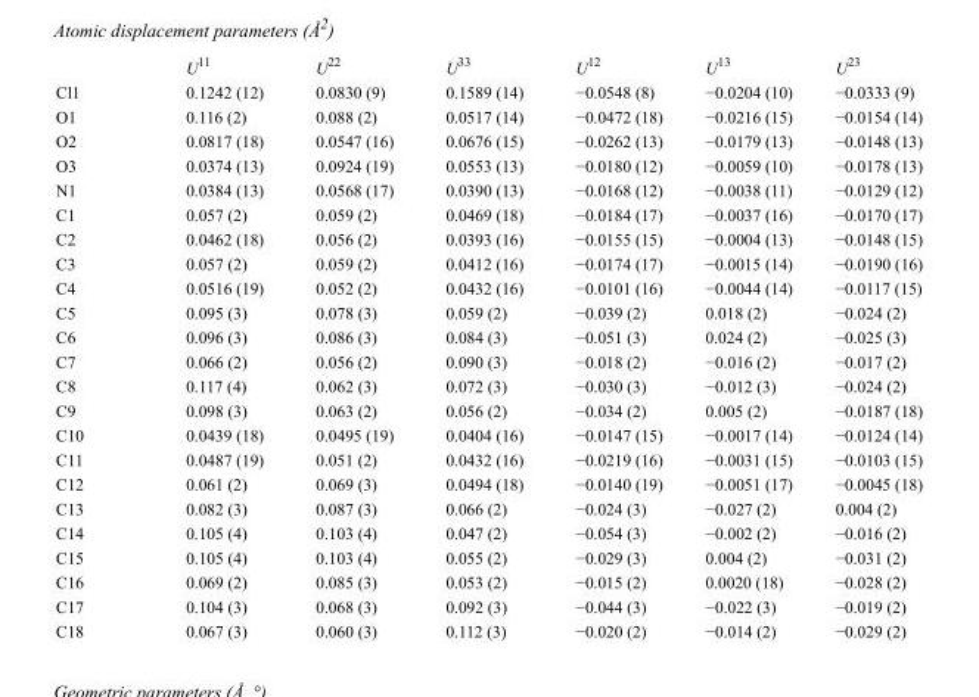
<table><thead><tr><td></td><td>U<sup>11</sup></td><td>U<sup>22</sup></td><td>U<sup>33</sup></td><td>U<sup>12</sup></td><td>U<sup>13</sup></td><td>U<sup>23</sup></td></tr></thead><tbody><tr><td>Cl1</td><td>0.1242 (12)</td><td>0.0830 (9)</td><td>0.1589 (14)</td><td>−0.0548 (8)</td><td>−0.0204 (10)</td><td>−0.0333 (9)</td></tr><tr><td>O1</td><td>0.116 (2)</td><td>0.088 (2)</td><td>0.0517 (14)</td><td>−0.0472 (18)</td><td>−0.0216 (15)</td><td>−0.0154 (14)</td></tr><tr><td>O2</td><td>0.0817 (18)</td><td>0.0547 (16)</td><td>0.0676 (15)</td><td>−0.0262 (13)</td><td>−0.0179 (13)</td><td>−0.0148 (13)</td></tr><tr><td>O3</td><td>0.0374 (13)</td><td>0.0924 (19)</td><td>0.0553 (13)</td><td>−0.0180 (12)</td><td>−0.0059 (10)</td><td>−0.0178 (13)</td></tr><tr><td>N1</td><td>0.0384 (13)</td><td>0.0568 (17)</td><td>0.0390 (13)</td><td>−0.0168 (12)</td><td>−0.0038 (11)</td><td>−0.0129 (12)</td></tr><tr><td>C1</td><td>0.057 (2)</td><td>0.059 (2)</td><td>0.0469 (18)</td><td>−0.0184 (17)</td><td>−0.0037 (16)</td><td>−0.0170 (17)</td></tr><tr><td>C2</td><td>0.0462 (18)</td><td>0.056 (2)</td><td>0.0393 (16)</td><td>−0.0155 (15)</td><td>−0.0004 (13)</td><td>−0.0148 (15)</td></tr><tr><td>C3</td><td>0.057 (2)</td><td>0.059 (2)</td><td>0.0412 (16)</td><td>−0.0174 (17)</td><td>−0.0015 (14)</td><td>−0.0190 (16)</td></tr><tr><td>C4</td><td>0.0516 (19)</td><td>0.052 (2)</td><td>0.0432 (16)</td><td>−0.0101 (16)</td><td>−0.0044 (14)</td><td>−0.0117 (15)</td></tr><tr><td>C5</td><td>0.095 (3)</td><td>0.078 (3)</td><td>0.059 (2)</td><td>−0.039 (2)</td><td>0.018 (2)</td><td>−0.024 (2)</td></tr><tr><td>C6</td><td>0.096 (3)</td><td>0.086 (3)</td><td>0.084 (3)</td><td>−0.051 (3)</td><td>0.024 (2)</td><td>−0.025 (3)</td></tr><tr><td>C7</td><td>0.066 (2)</td><td>0.056 (2)</td><td>0.090 (3)</td><td>−0.018 (2)</td><td>−0.016 (2)</td><td>−0.017 (2)</td></tr><tr><td>C8</td><td>0.117 (4)</td><td>0.062 (3)</td><td>0.072 (3)</td><td>−0.030 (3)</td><td>−0.012 (3)</td><td>−0.024 (2)</td></tr><tr><td>C9</td><td>0.098 (3)</td><td>0.063 (2)</td><td>0.056 (2)</td><td>−0.034 (2)</td><td>0.005 (2)</td><td>−0.0187 (18)</td></tr><tr><td>C10</td><td>0.0439 (18)</td><td>0.0495 (19)</td><td>0.0404 (16)</td><td>−0.0147 (15)</td><td>−0.0017 (14)</td><td>−0.0124 (14)</td></tr><tr><td>C11</td><td>0.0487 (19)</td><td>0.051 (2)</td><td>0.0432 (16)</td><td>−0.0219 (16)</td><td>−0.0031 (15)</td><td>−0.0103 (15)</td></tr><tr><td>C12</td><td>0.061 (2)</td><td>0.069 (3)</td><td>0.0494 (18)</td><td>−0.0140 (19)</td><td>−0.0051 (17)</td><td>−0.0045 (18)</td></tr><tr><td>C13</td><td>0.082 (3)</td><td>0.087 (3)</td><td>0.066 (2)</td><td>−0.024 (3)</td><td>−0.027 (2)</td><td>0.004 (2)</td></tr><tr><td>C14</td><td>0.105 (4)</td><td>0.103 (4)</td><td>0.047 (2)</td><td>−0.054 (3)</td><td>−0.002 (2)</td><td>−0.016 (2)</td></tr><tr><td>C15</td><td>0.105 (4)</td><td>0.103 (4)</td><td>0.055 (2)</td><td>−0.029 (3)</td><td>0.004 (2)</td><td>−0.031 (2)</td></tr><tr><td>C16</td><td>0.069 (2)</td><td>0.085 (3)</td><td>0.053 (2)</td><td>−0.015 (2)</td><td>0.0020 (18)</td><td>−0.028 (2)</td></tr><tr><td>C17</td><td>0.104 (3)</td><td>0.068 (3)</td><td>0.092 (3)</td><td>−0.044 (3)</td><td>−0.022 (3)</td><td>−0.019 (2)</td></tr><tr><td>C18</td><td>0.067 (3)</td><td>0.060 (3)</td><td>0.112 (3)</td><td>−0.020 (2)</td><td>−0.014 (2)</td><td>−0.029 (2)</td></tr></tbody></table>